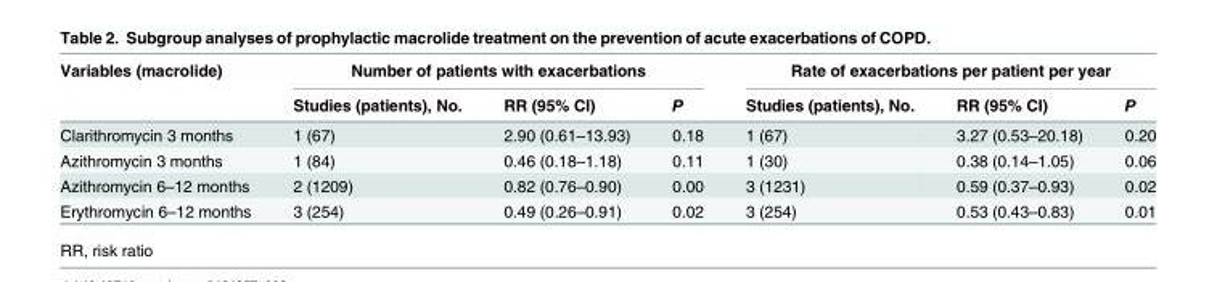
<table><thead><tr><td rowspan="2">Variables (macrolide)</td><td colspan="3">Number of patients with exacerbations</td><td colspan="3">Rate of exacerbations per patient per year</td></tr><tr><td>Studies (patients), No.</td><td>RR (95% CI)</td><td>P</td><td>Studies (patients), No.</td><td>RR (95% CI)</td><td>P</td></tr></thead><tbody><tr><td>Clarithromycin 3 months</td><td>1 (67)</td><td>2.90 (0.61–13.93)</td><td>0.18</td><td>1 (67)</td><td>3.27 (0.53–20.18)</td><td>0.20</td></tr><tr><td>Azithromycin 3 months</td><td>1 (84)</td><td>0.46 (0.18–1.18)</td><td>0.11</td><td>1 (30)</td><td>0.38 (0.14–1.05)</td><td>0.06</td></tr><tr><td>Azithromycin 6–12 months</td><td>2 (1209)</td><td>0.82 (0.76–0.90)</td><td>0.00</td><td>3 (1231)</td><td>0.59 (0.37–0.93)</td><td>0.02</td></tr><tr><td>Erythromycin 6–12 months</td><td>3 (254)</td><td>0.49 (0.26–0.91)</td><td>0.02</td><td>3 (254)</td><td>0.53 (0.43–0.83)</td><td>0.01</td></tr></tbody></table>